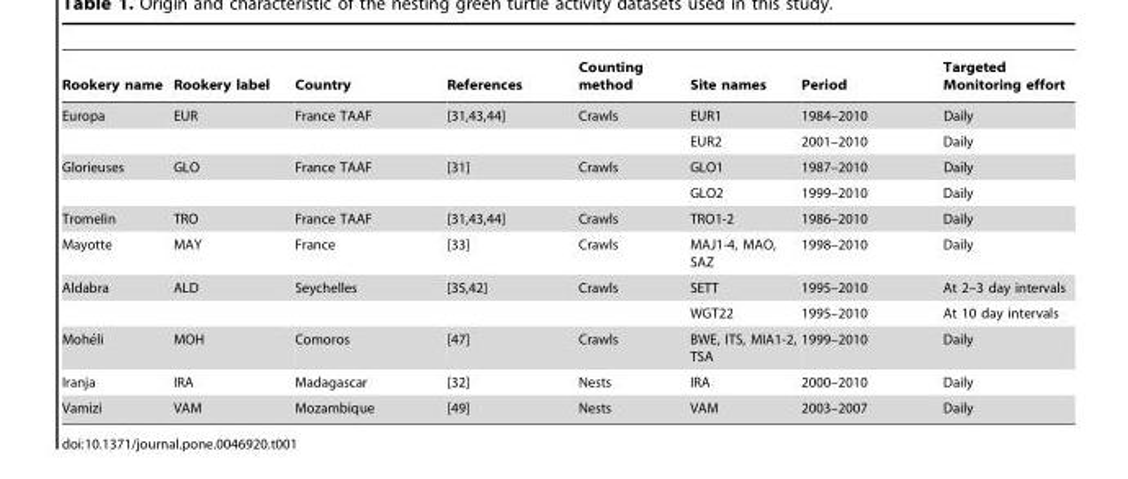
<table><thead><tr><td>Rookery name</td><td>Rookery label</td><td>Country</td><td>References</td><td>Counting method</td><td>Site names</td><td>Period</td><td>Targeted Monitoring effort</td></tr></thead><tbody><tr><td rowspan="2">Europa</td><td>EUR</td><td>France TAAF</td><td>[31,43,44]</td><td>Crawls</td><td>EUR1</td><td>1984–2010</td><td>Daily</td></tr><tr><td></td><td></td><td></td><td></td><td>EUR2</td><td>2001–2010</td><td>Daily</td></tr><tr><td rowspan="2">Glorieuses</td><td>GLO</td><td>France TAAF</td><td>[31]</td><td>Crawls</td><td>GLO1</td><td>1987–2010</td><td>Daily</td></tr><tr><td></td><td></td><td></td><td></td><td>GLO2</td><td>1999–2010</td><td>Daily</td></tr><tr><td>Tromelin</td><td>TRO</td><td>France TAAF</td><td>[31,43,44]</td><td>Crawls</td><td>TRO1-2</td><td>1986–2010</td><td>Daily</td></tr><tr><td>Mayotte</td><td>MAY</td><td>France</td><td>[33]</td><td>Crawls</td><td>MAJ1-4, MAO, SAZ</td><td>1998–2010</td><td>Daily</td></tr><tr><td rowspan="2">Aldabra</td><td>ALD</td><td>Seychelles</td><td>[35,42]</td><td>Crawls</td><td>SETT</td><td>1995–2010</td><td>At 2–3 day intervals</td></tr><tr><td></td><td></td><td></td><td></td><td>WGT22</td><td>1995–2010</td><td>At 10 day intervals</td></tr><tr><td>Mohe´li</td><td>MOH</td><td>Comoros</td><td>[47]</td><td>Crawls</td><td>BWE, ITS, MIA1-2, TSA</td><td>1999–2010</td><td>Daily</td></tr><tr><td>Iranja</td><td>IRA</td><td>Madagascar</td><td>[32]</td><td>Nests</td><td>IRA</td><td>2000–2010</td><td>Daily</td></tr><tr><td>Vamizi</td><td>VAM</td><td>Mozambique</td><td>[49]</td><td>Nests</td><td>VAM</td><td>2003–2007</td><td>Daily</td></tr></tbody></table>